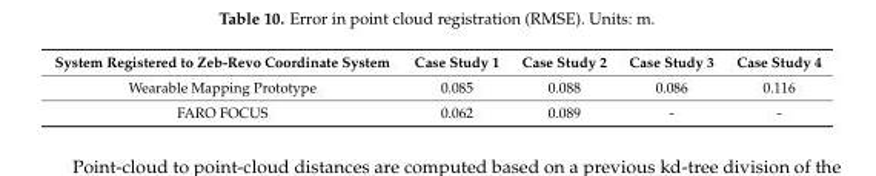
<table><thead><tr><td>System Registered to Zeb-Revo Coordinate System</td><td>Case Study 1</td><td>Case Study 2</td><td>Case Study 3</td><td>Case Study 4</td></tr></thead><tbody><tr><td>Wearable Mapping Prototype</td><td>0.085</td><td>0.088</td><td>0.086</td><td>0.116</td></tr><tr><td>FARO FOCUS</td><td>0.062</td><td>0.089</td><td>-</td><td>-</td></tr></tbody></table>